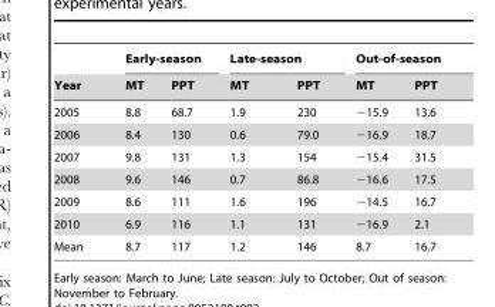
<table><thead><tr><td rowspan="2">Year</td><td colspan="2">Early-season</td><td colspan="2">Late-season</td><td colspan="2">Out-of-season</td></tr><tr><td>MT</td><td>PPT</td><td>MT</td><td>PPT</td><td>MT</td><td>PPT</td></tr></thead><tbody><tr><td>2005</td><td>8.8</td><td>68.7</td><td>1.9</td><td>230</td><td>−15.9</td><td>13.6</td></tr><tr><td>2006</td><td>8.4</td><td>130</td><td>0.6</td><td>79.0</td><td>−16.9</td><td>18.7</td></tr><tr><td>2007</td><td>9.8</td><td>131</td><td>1.3</td><td>154</td><td>−15.4</td><td>31.5</td></tr><tr><td>2008</td><td>9.6</td><td>146</td><td>0.7</td><td>86.8</td><td>−16.6</td><td>17.5</td></tr><tr><td>2009</td><td>8.6</td><td>111</td><td>1.6</td><td>196</td><td>−14.5</td><td>16.7</td></tr><tr><td>2010</td><td>6.9</td><td>116</td><td>1.1</td><td>131</td><td>−16.9</td><td>2.1</td></tr><tr><td>Mean</td><td>8.7</td><td>117</td><td>1.2</td><td>146</td><td>8.7</td><td>16.7</td></tr></tbody></table>